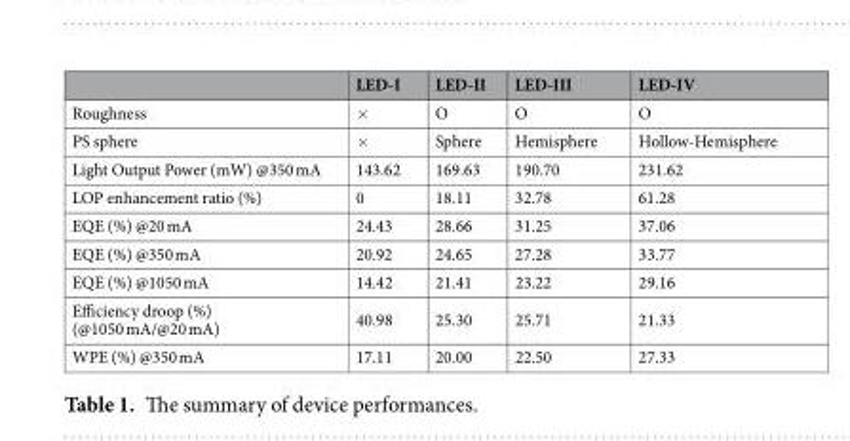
<table><thead><tr><td></td><td>LED-I</td><td>LED-II</td><td>LED-III</td><td>LED-IV</td></tr></thead><tbody><tr><td>Roughness</td><td>×</td><td>O</td><td>O</td><td>O</td></tr><tr><td>PS sphere</td><td>×</td><td>Sphere</td><td>Hemisphere</td><td>Hollow-Hemisphere</td></tr><tr><td>Light Output Power (mW) @350 mA</td><td>143.62</td><td>169.63</td><td>190.70</td><td>231.62</td></tr><tr><td>LOP enhancement ratio (%)</td><td>0</td><td>18.11</td><td>32.78</td><td>61.28</td></tr><tr><td>EQE (%) @20 mA</td><td>24.43</td><td>28.66</td><td>31.25</td><td>37.06</td></tr><tr><td>EQE (%) @350 mA</td><td>20.92</td><td>24.65</td><td>27.28</td><td>33.77</td></tr><tr><td>EQE (%) @1050 mA</td><td>14.42</td><td>21.41</td><td>23.22</td><td>29.16</td></tr><tr><td>Efficiency droop (%) (@1050 mA/@20 mA)</td><td>40.98</td><td>25.30</td><td>25.71</td><td>21.33</td></tr><tr><td>WPE (%) @350 mA</td><td>17.11</td><td>20.00</td><td>22.50</td><td>27.33</td></tr></tbody></table>